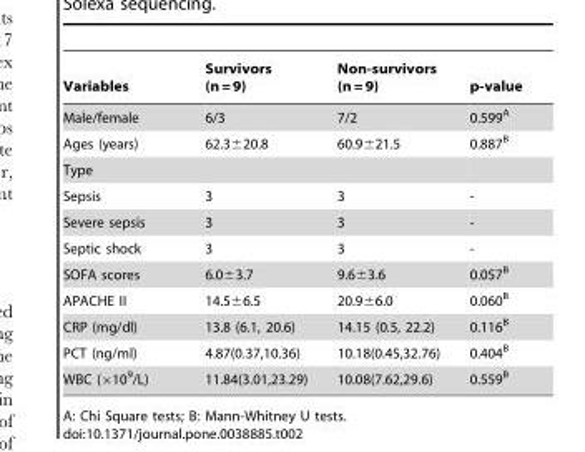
<table><thead><tr><td>Variables</td><td>Survivors (n = 9)</td><td>Non-survivors (n = 9)</td><td>p-value</td></tr></thead><tbody><tr><td>Male/female</td><td>6/3</td><td>7/2</td><td>0.599<sup>A</sup></td></tr><tr><td>Ages (years)</td><td>62.3±20.8</td><td>60.9±21.5</td><td>0.887<sup>B</sup></td></tr><tr><td colspan="4">Type</td></tr><tr><td>Sepsis</td><td>3</td><td>3</td><td>-</td></tr><tr><td>Severe sepsis</td><td>3</td><td>3</td><td>-</td></tr><tr><td>Septic shock</td><td>3</td><td>3</td><td>-</td></tr><tr><td>SOFA scores</td><td>6.0±3.7</td><td>9.6±3.6</td><td>0.057<sup>B</sup></td></tr><tr><td>APACHE II</td><td>14.5±6.5</td><td>20.9±6.0</td><td>0.060<sup>B</sup></td></tr><tr><td>CRP (mg/dl)</td><td>13.8 (6.1, 20.6)</td><td>14.15 (0.5, 22.2)</td><td>0.116<sup>B</sup></td></tr><tr><td>PCT (ng/ml)</td><td>4.87(0.37,10.36)</td><td>10.18(0.45,32.76)</td><td>0.404<sup>B</sup></td></tr><tr><td>WBC (×10<sup>9</sup>/L)</td><td>11.84(3.01,23.29)</td><td>10.08(7.62,29.6)</td><td>0.559<sup>B</sup></td></tr></tbody></table>